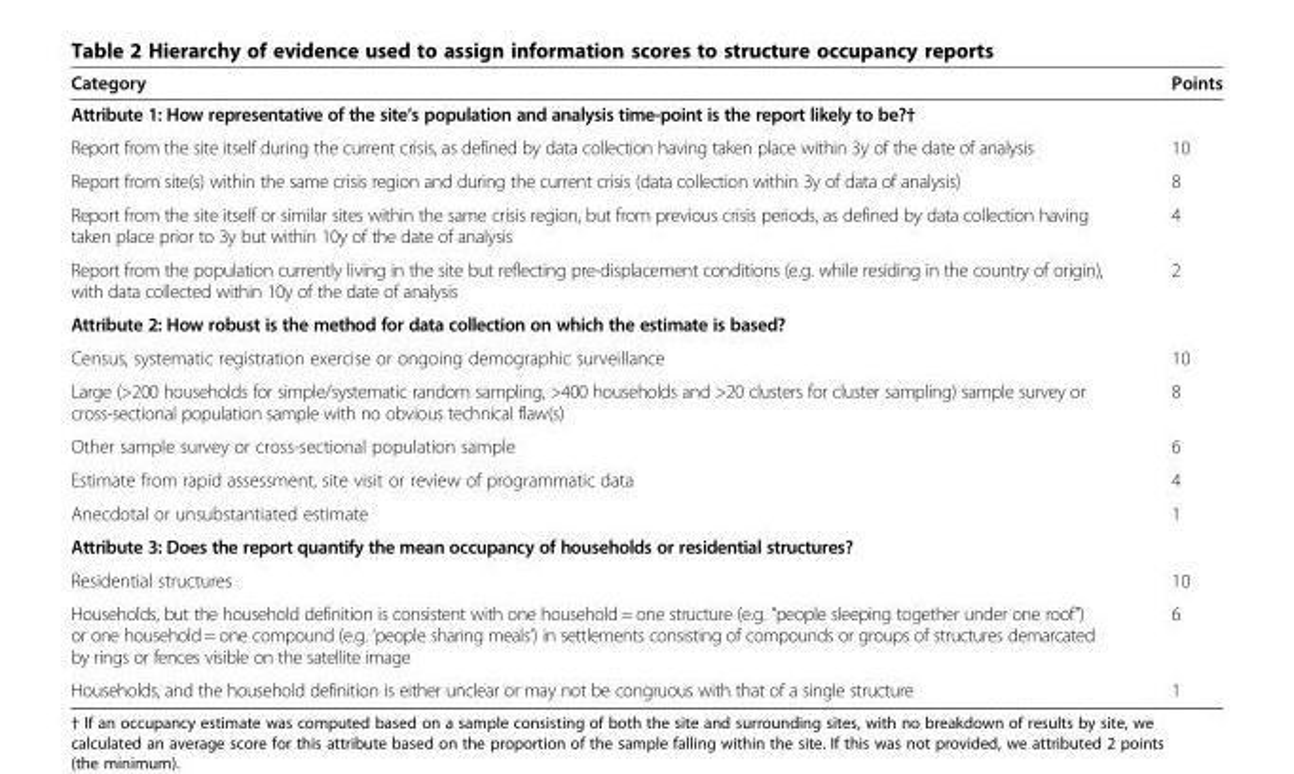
<table><thead><tr><td>Category</td><td>Points</td></tr></thead><tbody><tr><td colspan="2">Attribute 1: How representative of the site’s population and analysis time-point is the report likely to be?†</td></tr><tr><td>Report from the site itself during the current crisis, as defined by data collection having taken place within 3y of the date of analysis</td><td>10</td></tr><tr><td>Report from site(s) within the same crisis region and during the current crisis (data collection within 3y of data of analysis)</td><td>8</td></tr><tr><td>Report from the site itself or similar sites within the same crisis region, but from previous crisis periods, as defined by data collection having taken place prior to 3y but within 10y of the date of analysis</td><td>4</td></tr><tr><td>Report from the population currently living in the site but reflecting pre-displacement conditions (e.g. while residing in the country of origin), with data collected within 10y of the date of analysis</td><td>2</td></tr><tr><td colspan="2">Attribute 2: How robust is the method for data collection on which the estimate is based?</td></tr><tr><td>Census, systematic registration exercise or ongoing demographic surveillance</td><td>10</td></tr><tr><td>Large (&gt;200 households for simple/systematic random sampling, &gt;400 households and &gt;20 clusters for cluster sampling) sample survey or cross-sectional population sample with no obvious technical flaw(s)</td><td>8</td></tr><tr><td>Other sample survey or cross-sectional population sample</td><td>6</td></tr><tr><td>Estimate from rapid assessment, site visit or review of programmatic data</td><td>4</td></tr><tr><td>Anecdotal or unsubstantiated estimate</td><td>1</td></tr><tr><td colspan="2">Attribute 3: Does the report quantify the mean occupancy of households or residential structures?</td></tr><tr><td>Residential structures</td><td>10</td></tr><tr><td>Households, but the household definition is consistent with one household = one structure (e.g. “people sleeping together under one roof”) or one household = one compound (e.g. ‘people sharing meals’) in settlements consisting of compounds or groups of structures demarcated by rings or fences visible on the satellite image</td><td>6</td></tr><tr><td>Households, and the household definition is either unclear or may not be congruous with that of a single structure</td><td>1</td></tr></tbody></table>